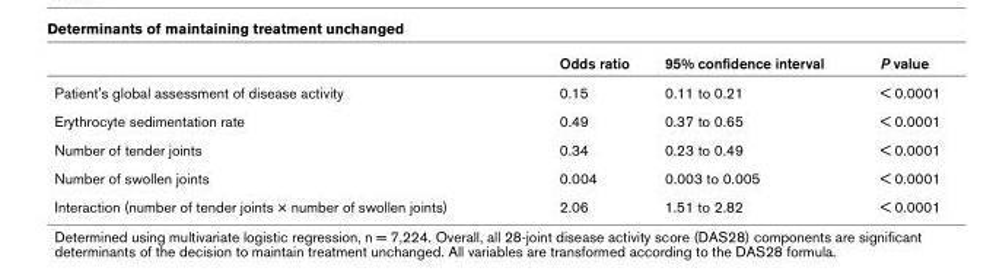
<table><thead><tr><td></td><td>Odds ratio</td><td>95% confidence interval</td><td>P value</td></tr></thead><tbody><tr><td>Patient&#x27;s global assessment of disease activity</td><td>0.15</td><td>0.11 to 0.21</td><td>&lt; 0.0001</td></tr><tr><td>Erythrocyte sedimentation rate</td><td>0.49</td><td>0.37 to 0.65</td><td>&lt; 0.0001</td></tr><tr><td>Number of tender joints</td><td>0.34</td><td>0.23 to 0.49</td><td>&lt; 0.0001</td></tr><tr><td>Number of swollen joints</td><td>0.004</td><td>0.003 to 0.005</td><td>&lt; 0.0001</td></tr><tr><td>Interaction (number of tender joints × number of swollen joints)</td><td>2.06</td><td>1.51 to 2.82</td><td>&lt; 0.0001</td></tr></tbody></table>